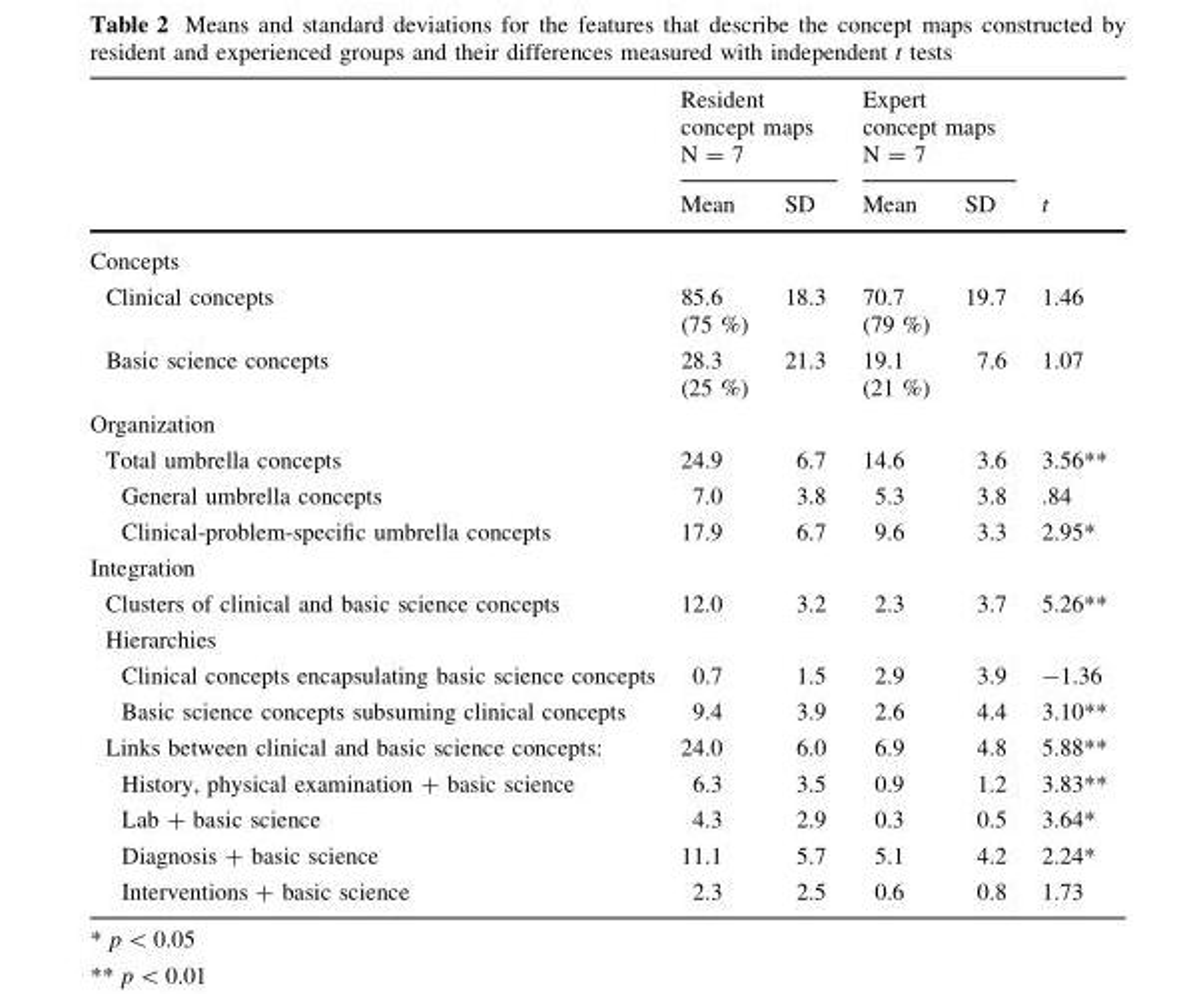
<table><thead><tr><td rowspan="2"></td><td colspan="2">Resident concept maps N = 7</td><td colspan="2">Expert concept maps N = 7</td><td rowspan="2">t</td></tr><tr><td>Mean</td><td>SD</td><td>Mean</td><td>SD</td></tr></thead><tbody><tr><td colspan="6">Concepts</td></tr><tr><td>Clinical concepts</td><td>85.6 (75 %)</td><td>18.3</td><td>70.7 (79 %)</td><td>19.7</td><td>1.46</td></tr><tr><td>Basic science concepts</td><td>28.3 (25 %)</td><td>21.3</td><td>19.1 (21 %)</td><td>7.6</td><td>1.07</td></tr><tr><td colspan="6">Organization</td></tr><tr><td>Total umbrella concepts</td><td>24.9</td><td>6.7</td><td>14.6</td><td>3.6</td><td>3.56**</td></tr><tr><td>General umbrella concepts</td><td>7.0</td><td>3.8</td><td>5.3</td><td>3.8</td><td>.84</td></tr><tr><td>Clinical-problem-specific umbrella concepts</td><td>17.9</td><td>6.7</td><td>9.6</td><td>3.3</td><td>2.95*</td></tr><tr><td colspan="6">Integration</td></tr><tr><td>Clusters of clinical and basic science concepts</td><td>12.0</td><td>3.2</td><td>2.3</td><td>3.7</td><td>5.26**</td></tr><tr><td colspan="6">Hierarchies</td></tr><tr><td>Clinical concepts encapsulating basic science concepts</td><td>0.7</td><td>1.5</td><td>2.9</td><td>3.9</td><td>-1.36</td></tr><tr><td>Basic science concepts subsuming clinical concepts</td><td>9.4</td><td>3.9</td><td>2.6</td><td>4.4</td><td>3.10**</td></tr><tr><td>Links between clinical and basic science concepts:</td><td>24.0</td><td>6.0</td><td>6.9</td><td>4.8</td><td>5.88**</td></tr><tr><td>History, physical examination + basic science</td><td>6.3</td><td>3.5</td><td>0.9</td><td>1.2</td><td>3.83**</td></tr><tr><td>Lab + basic science</td><td>4.3</td><td>2.9</td><td>0.3</td><td>0.5</td><td>3.64*</td></tr><tr><td>Diagnosis + basic science</td><td>11.1</td><td>5.7</td><td>5.1</td><td>4.2</td><td>2.24*</td></tr><tr><td>Interventions + basic science</td><td>2.3</td><td>2.5</td><td>0.6</td><td>0.8</td><td>1.73</td></tr></tbody></table>